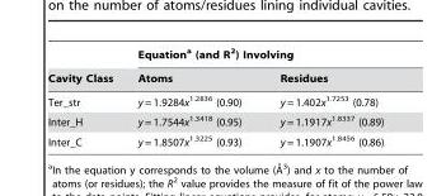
<table><thead><tr><td rowspan="2">Cavity Class</td><td colspan="2">Equation<sup>a</sup> (and R<sup>2</sup>) Involving</td></tr><tr><td>Atoms</td><td>Residues</td></tr></thead><tbody><tr><td>Ter_str</td><td>y = 1.9284x<sup>1.2836</sup> (0.90)</td><td>y = 1.402x<sup>1.7253</sup> (0.78)</td></tr><tr><td>Inter_H</td><td>y = 1.7544x<sup>1.3418</sup> (0.95)</td><td>y = 1.1917x<sup>1.8337</sup> (0.89)</td></tr><tr><td>Inter_C</td><td>y = 1.8507x<sup>1.3225</sup> (0.93)</td><td>y = 1.1907x<sup>1.8456</sup> (0.86)</td></tr></tbody></table>